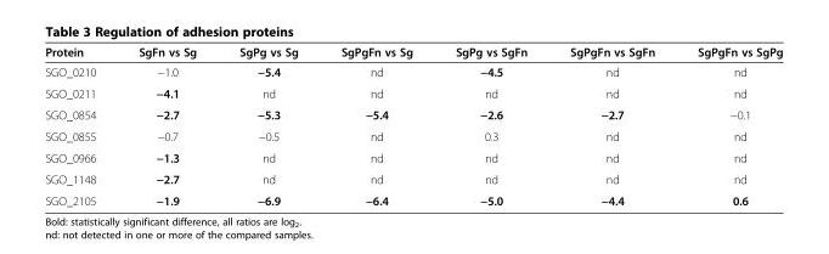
<table><thead><tr><td>Protein</td><td>SgFn vs Sg</td><td>SgPg vs Sg</td><td>SgPgFn vs Sg</td><td>SgPg vs SgFn</td><td>SgPgFn vs SgFn</td><td>SgPgFn vs SgPg</td></tr></thead><tbody><tr><td>SGO_0210</td><td>−1.0</td><td>−5.4</td><td>nd</td><td>−4.5</td><td>nd</td><td>nd</td></tr><tr><td>SGO_0211</td><td>−4.1</td><td>nd</td><td>nd</td><td>nd</td><td>nd</td><td>nd</td></tr><tr><td>SGO_0854</td><td>−2.7</td><td>−5.3</td><td>−5.4</td><td>−2.6</td><td>−2.7</td><td>−0.1</td></tr><tr><td>SGO_0855</td><td>−0.7</td><td>−0.5</td><td>nd</td><td>0.3</td><td>nd</td><td>nd</td></tr><tr><td>SGO_0966</td><td>−1.3</td><td>nd</td><td>nd</td><td>nd</td><td>nd</td><td>nd</td></tr><tr><td>SGO_1148</td><td>−2.7</td><td>nd</td><td>nd</td><td>nd</td><td>nd</td><td>nd</td></tr><tr><td>SGO_2105</td><td>−1.9</td><td>−6.9</td><td>−6.4</td><td>−5.0</td><td>−4.4</td><td>0.6</td></tr></tbody></table>